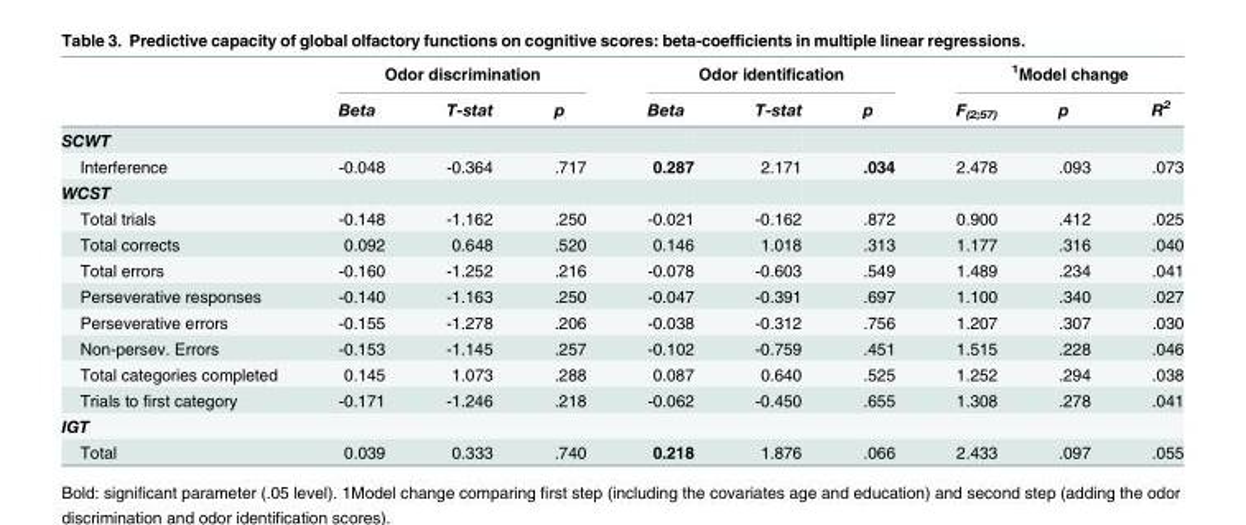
<table><thead><tr><td rowspan="2"></td><td colspan="3">Odor discrimination</td><td colspan="3">Odor identification</td><td colspan="3"><sup>1</sup>Model change</td></tr><tr><td>Beta</td><td>T-stat</td><td>p</td><td>Beta</td><td>T-stat</td><td>p</td><td>F<sub>(2;57)</sub></td><td>p</td><td>R<sup>2</sup></td></tr></thead><tbody><tr><td colspan="10">SCWT</td></tr><tr><td>Interference</td><td>-0.048</td><td>-0.364</td><td>.717</td><td>0.287</td><td>2.171</td><td>.034</td><td>2.478</td><td>.093</td><td>.073</td></tr><tr><td colspan="10">WCST</td></tr><tr><td>Total trials</td><td>-0.148</td><td>-1.162</td><td>.250</td><td>-0.021</td><td>-0.162</td><td>.872</td><td>0.900</td><td>.412</td><td>.025</td></tr><tr><td>Total corrects</td><td>0.092</td><td>0.648</td><td>.520</td><td>0.146</td><td>1.018</td><td>.313</td><td>1.177</td><td>.316</td><td>.040</td></tr><tr><td>Total errors</td><td>-0.160</td><td>-1.252</td><td>.216</td><td>-0.078</td><td>-0.603</td><td>.549</td><td>1.489</td><td>.234</td><td>.041</td></tr><tr><td>Perseverative responses</td><td>-0.140</td><td>-1.163</td><td>.250</td><td>-0.047</td><td>-0.391</td><td>.697</td><td>1.100</td><td>.340</td><td>.027</td></tr><tr><td>Perseverative errors</td><td>-0.155</td><td>-1.278</td><td>.206</td><td>-0.038</td><td>-0.312</td><td>.756</td><td>1.207</td><td>.307</td><td>.030</td></tr><tr><td>Non-persev. Errors</td><td>-0.153</td><td>-1.145</td><td>.257</td><td>-0.102</td><td>-0.759</td><td>.451</td><td>1.515</td><td>.228</td><td>.046</td></tr><tr><td>Total categories completed</td><td>0.145</td><td>1.073</td><td>.288</td><td>0.087</td><td>0.640</td><td>.525</td><td>1.252</td><td>.294</td><td>.038</td></tr><tr><td>Trials to first category</td><td>-0.171</td><td>-1.246</td><td>.218</td><td>-0.062</td><td>-0.450</td><td>.655</td><td>1.308</td><td>.278</td><td>.041</td></tr><tr><td colspan="10">IGT</td></tr><tr><td>Total</td><td>0.039</td><td>0.333</td><td>.740</td><td>0.218</td><td>1.876</td><td>.066</td><td>2.433</td><td>.097</td><td>.055</td></tr></tbody></table>